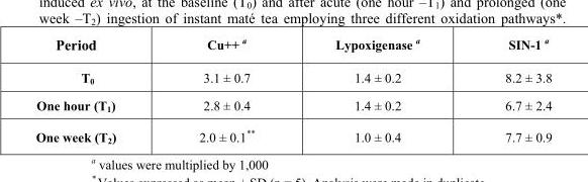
<table><thead><tr><td>Period</td><td>Cu++ <sup>a</sup></td><td>Lypoxigenase <sup>a</sup></td><td>SIN-1 <sup>a</sup></td></tr></thead><tbody><tr><td>T<sub>0</sub></td><td>3.1 ± 0.7</td><td>1.4 ± 0.2</td><td>8.2 ± 3.8</td></tr><tr><td>One hour (T<sub>1</sub>)</td><td>2.8 ± 0.4</td><td>1.4 ± 0.2</td><td>6.7 ± 2.4</td></tr><tr><td>One week (T<sub>2</sub>)</td><td>2.0 ± 0.1**</td><td>1.0 ± 0.4</td><td>7.7 ± 0.9</td></tr></tbody></table>